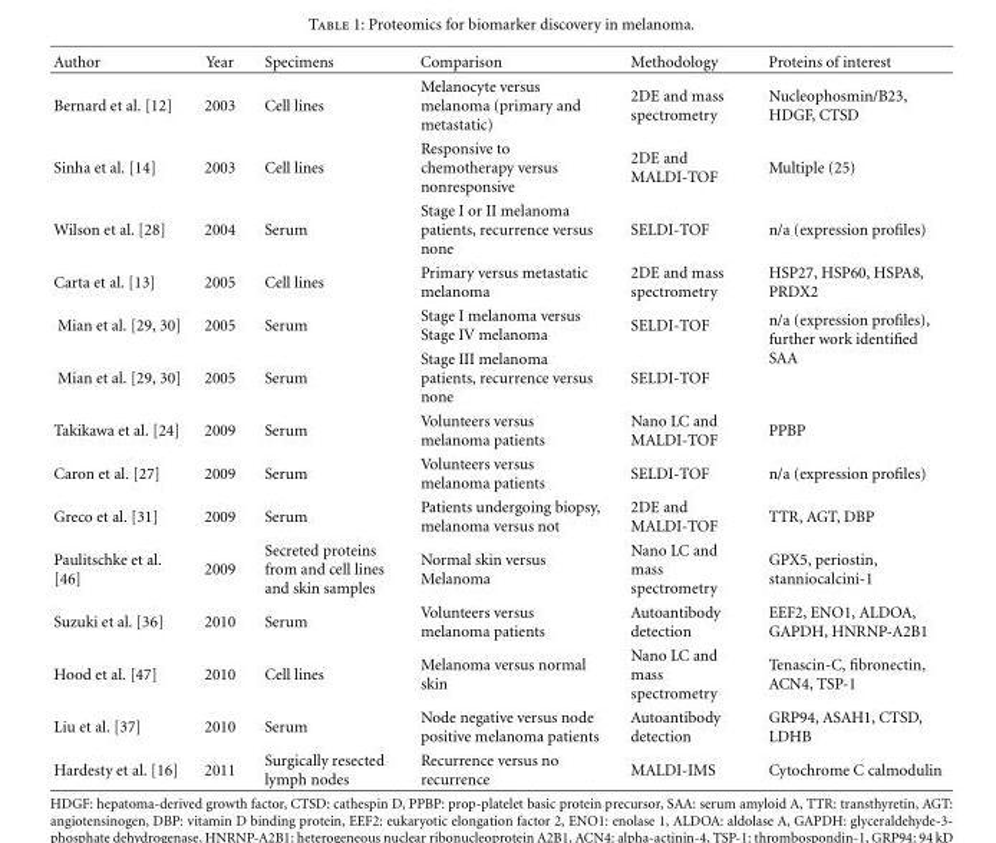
<table><thead><tr><td>Author</td><td>Year</td><td>Specimens</td><td>Comparison</td><td>Methodology</td><td>Proteins of interest</td></tr></thead><tbody><tr><td>Bernard et al. [12]</td><td>2003</td><td>Cell lines</td><td>Melanocyte versus melanoma (primary and metastatic)</td><td>2DE and mass spectrometry</td><td>Nucleophosmin/B23, HDGF, CTSD</td></tr><tr><td>Sinha et al. [14]</td><td>2003</td><td>Cell lines</td><td>Responsive to chemotherapy versus nonresponsive</td><td>2DE and MALDI-TOF</td><td>Multiple (25)</td></tr><tr><td>Wilson et al. [28]</td><td>2004</td><td>Serum</td><td>Stage I or II melanoma patients, recurrence versus none</td><td>SELDI-TOF</td><td>n/a (expression profiles)</td></tr><tr><td>Carta et al. [13]</td><td>2005</td><td>Cell lines</td><td>Primary versus metastatic melanoma</td><td>2DE and mass spectrometry</td><td>HSP27, HSP60, HSPA8, PRDX2</td></tr><tr><td>Mian et al. [29, 30]</td><td>2005</td><td>Serum</td><td>Stage I melanoma versus Stage IV melanoma</td><td>SELDI-TOF</td><td rowspan="2">n/a (expression profiles), further work identified SAA</td></tr><tr><td>Mian et al. [29, 30]</td><td>2005</td><td>Serum</td><td>Stage III melanoma patients, recurrence versus none</td><td>SELDI-TOF</td></tr><tr><td>Takikawa et al. [24]</td><td>2009</td><td>Serum</td><td>Volunteers versus melanoma patients</td><td>Nano LC and MALDI-TOF</td><td>PPBP</td></tr><tr><td>Caron et al. [27]</td><td>2009</td><td>Serum</td><td>Volunteers versus melanoma patients</td><td>SELDI-TOF</td><td>n/a (expression profiles)</td></tr><tr><td>Greco et al. [31]</td><td>2009</td><td>Serum</td><td>Patients undergoing biopsy, melanoma versus not</td><td>2DE and MALDI-TOF</td><td>TTR, AGT, DBP</td></tr><tr><td>Paulitschke et al. [46]</td><td>2009</td><td>Secreted proteins from and cell lines and skin samples</td><td>Normal skin versus Melanoma</td><td>Nano LC and mass spectrometry</td><td>GPX5, periostin, stanniocalcini-1</td></tr><tr><td>Suzuki et al. [36]</td><td>2010</td><td>Serum</td><td>Volunteers versus melanoma patients</td><td>Autoantibody detection</td><td>EEF2, ENO1, ALDOA, GAPDH, HNRNP-A2B1</td></tr><tr><td>Hood et al. [47]</td><td>2010</td><td>Cell lines</td><td>Melanoma versus normal skin</td><td>Nano LC and mass spectrometry</td><td>Tenascin-C, fibronectin, ACN4, TSP-1</td></tr><tr><td>Liu et al. [37]</td><td>2010</td><td>Serum</td><td>Node negative versus node positive melanoma patients</td><td>Autoantibody detection</td><td>GRP94, ASAH1, CTSD, LDHB</td></tr><tr><td>Hardesty et al. [16]</td><td>2011</td><td>Surgically resected lymph nodes</td><td>Recurrence versus no recurrence</td><td>MALDI-IMS</td><td>Cytochrome C calmodulin</td></tr></tbody></table>